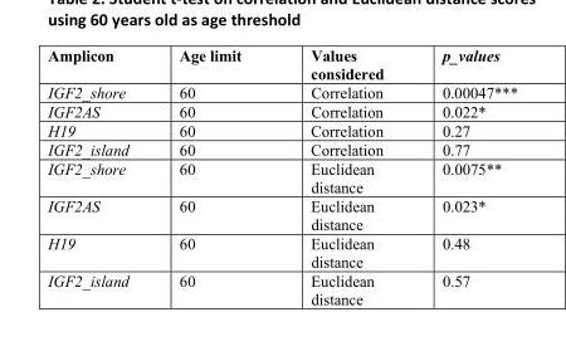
<table><thead><tr><td>Amplicon</td><td>Age limit</td><td>Values considered</td><td>p_values</td></tr></thead><tbody><tr><td>IGF2_shore</td><td>60</td><td>Correlation</td><td>0.00047***</td></tr><tr><td>IGF2AS</td><td>60</td><td>Correlation</td><td>0.022*</td></tr><tr><td>H19</td><td>60</td><td>Correlation</td><td>0.27</td></tr><tr><td>IGF2_island</td><td>60</td><td>Correlation</td><td>0.77</td></tr><tr><td>IGF2_shore</td><td>60</td><td>Euclidean distance</td><td>0.0075**</td></tr><tr><td>IGF2AS</td><td>60</td><td>Euclidean distance</td><td>0.023*</td></tr><tr><td>H19</td><td>60</td><td>Euclidean distance</td><td>0.48</td></tr><tr><td>IGF2_island</td><td>60</td><td>Euclidean distance</td><td>0.57</td></tr></tbody></table>